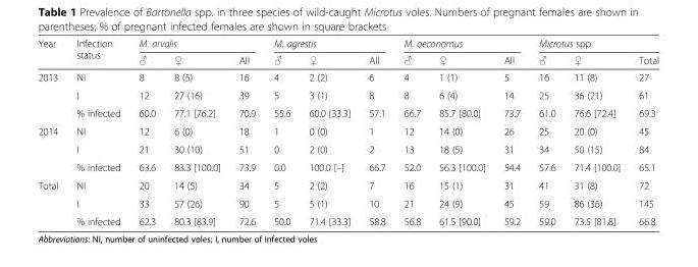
<table><thead><tr><td rowspan="2">Year</td><td rowspan="2">Infection status</td><td colspan="3">M. arvalis</td><td colspan="3">M. agrestis</td><td colspan="3">M. oeconomus</td><td colspan="3">Microtus spp.</td></tr><tr><td>♂</td><td>♀</td><td>All</td><td>♂</td><td>♀</td><td>All</td><td>♂</td><td>♀</td><td>All</td><td>♂</td><td>♀</td><td>Total</td></tr></thead><tbody><tr><td rowspan="3">2013</td><td>NI</td><td>8</td><td>8 (5)</td><td>16</td><td>4</td><td>2 (2)</td><td>6</td><td>4</td><td>1 (1)</td><td>5</td><td>16</td><td>11 (8)</td><td>27</td></tr><tr><td>I</td><td>12</td><td>27 (16)</td><td>39</td><td>5</td><td>3 (1)</td><td>8</td><td>8</td><td>6 (4)</td><td>14</td><td>25</td><td>36 (21)</td><td>61</td></tr><tr><td>% infected</td><td>60.0</td><td>77.1 [76.2]</td><td>70.9</td><td>55.6</td><td>60.0 [33.3]</td><td>57.1</td><td>66.7</td><td>85.7 [80.0]</td><td>73.7</td><td>61.0</td><td>76.6 [72.4]</td><td>69.3</td></tr><tr><td rowspan="3">2014</td><td>NI</td><td>12</td><td>6 (0)</td><td>18</td><td>1</td><td>0 (0)</td><td>1</td><td>12</td><td>14 (0)</td><td>26</td><td>25</td><td>20 (0)</td><td>45</td></tr><tr><td>I</td><td>21</td><td>30 (10)</td><td>51</td><td>0</td><td>2 (0)</td><td>2</td><td>13</td><td>18 (5)</td><td>31</td><td>34</td><td>50 (15)</td><td>84</td></tr><tr><td>% infected</td><td>63.6</td><td>83.3 [100.0]</td><td>73.9</td><td>0.0</td><td>100.0 [–]</td><td>66.7</td><td>52.0</td><td>56.3 [100.0]</td><td>54.4</td><td>57.6</td><td>71.4 [100.0]</td><td>65.1</td></tr><tr><td rowspan="3">Total</td><td>NI</td><td>20</td><td>14 (5)</td><td>34</td><td>5</td><td>2 (2)</td><td>7</td><td>16</td><td>15 (1)</td><td>31</td><td>41</td><td>31 (8)</td><td>72</td></tr><tr><td>I</td><td>33</td><td>57 (26)</td><td>90</td><td>5</td><td>5 (1)</td><td>10</td><td>21</td><td>24 (9)</td><td>45</td><td>59</td><td>86 (36)</td><td>145</td></tr><tr><td>% infected</td><td>62.3</td><td>80.3 [83.9]</td><td>72.6</td><td>50.0</td><td>71.4 [33.3]</td><td>58.8</td><td>56.8</td><td>61.5 [90.0]</td><td>59.2</td><td>59.0</td><td>73.5 [81.8]</td><td>66.8</td></tr></tbody></table>